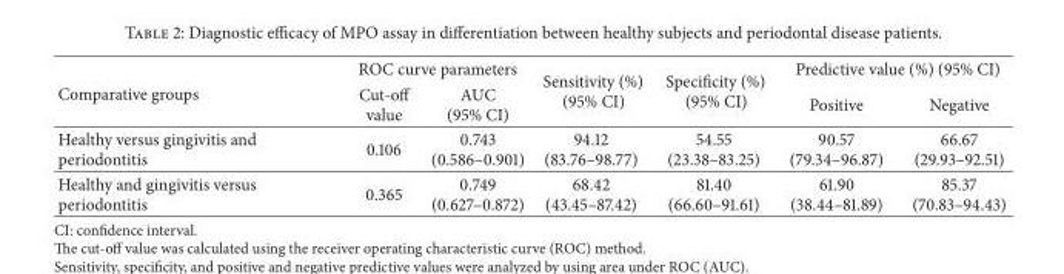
<table><thead><tr><td rowspan="2">Comparative groups</td><td colspan="2">ROC curve parameters</td><td rowspan="2">Sensitivity (%) (95% CI)</td><td rowspan="2">Specificity (%) (95% CI)</td><td colspan="2">Predictive value (%) (95% CI)</td></tr><tr><td>Cut-off value</td><td>AUC (95% CI)</td><td>Positive</td><td>Negative</td></tr></thead><tbody><tr><td>Healthy versus gingivitis and periodontitis</td><td>0.106</td><td>0.743 (0.586–0.901)</td><td>94.12 (83.76–98.77)</td><td>54.55 (23.38–83.25)</td><td>90.57 (79.34–96.87)</td><td>66.67 (29.93–92.51)</td></tr><tr><td>Healthy and gingivitis versus periodontitis</td><td>0.365</td><td>0.749 (0.627–0.872)</td><td>68.42 (43.45–87.42)</td><td>81.40 (66.60–91.61)</td><td>61.90 (38.44–81.89)</td><td>85.37 (70.83–94.43)</td></tr></tbody></table>